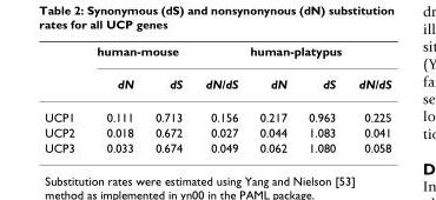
<table><thead><tr><td rowspan="2"></td><td colspan="3">human-mouse</td><td colspan="3">human-platypus</td></tr><tr><td>dN</td><td>dS</td><td>dN/dS</td><td>dN</td><td>dS</td><td>dN/dS</td></tr></thead><tbody><tr><td>UCP1</td><td>0.111</td><td>0.713</td><td>0.156</td><td>0.217</td><td>0.963</td><td>0.225</td></tr><tr><td>UCP2</td><td>0.018</td><td>0.672</td><td>0.027</td><td>0.044</td><td>1.083</td><td>0.041</td></tr><tr><td>UCP3</td><td>0.033</td><td>0.674</td><td>0.049</td><td>0.062</td><td>1.080</td><td>0.058</td></tr></tbody></table>